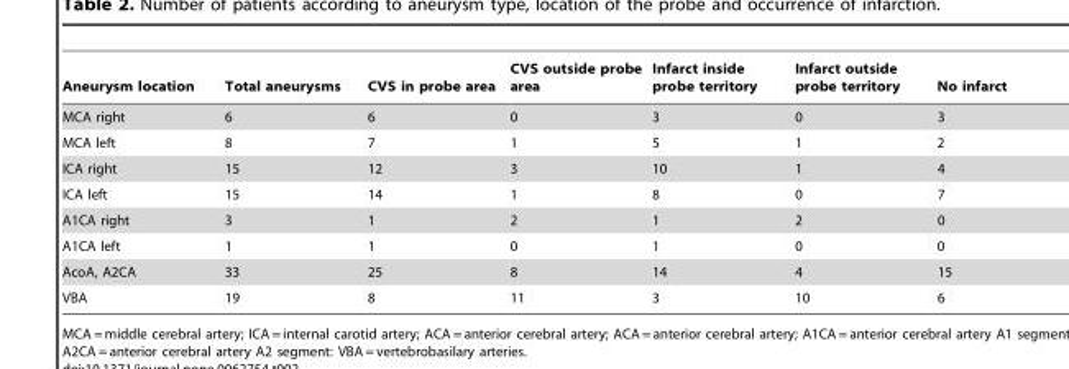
<table><thead><tr><td>Aneurysm location</td><td>Total aneurysms</td><td>CVS in probe area</td><td>CVS outside probe area</td><td>Infarct inside probe territory</td><td>Infarct outside probe territory</td><td>No infarct</td></tr></thead><tbody><tr><td>MCA right</td><td>6</td><td>6</td><td>0</td><td>3</td><td>0</td><td>3</td></tr><tr><td>MCA left</td><td>8</td><td>7</td><td>1</td><td>5</td><td>1</td><td>2</td></tr><tr><td>ICA right</td><td>15</td><td>12</td><td>3</td><td>10</td><td>1</td><td>4</td></tr><tr><td>ICA left</td><td>15</td><td>14</td><td>1</td><td>8</td><td>0</td><td>7</td></tr><tr><td>A1CA right</td><td>3</td><td>1</td><td>2</td><td>1</td><td>2</td><td>0</td></tr><tr><td>A1CA left</td><td>1</td><td>1</td><td>0</td><td>1</td><td>0</td><td>0</td></tr><tr><td>AcoA, A2CA</td><td>33</td><td>25</td><td>8</td><td>14</td><td>4</td><td>15</td></tr><tr><td>VBA</td><td>19</td><td>8</td><td>11</td><td>3</td><td>10</td><td>6</td></tr></tbody></table>